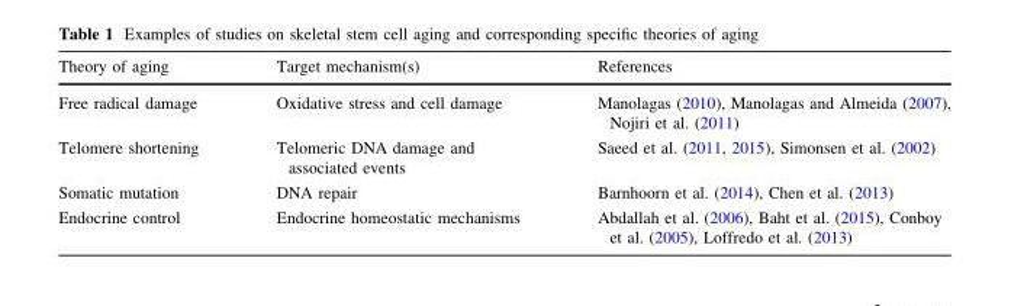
<table><thead><tr><td>Theory of aging</td><td>Target mechanism(s)</td><td>References</td></tr></thead><tbody><tr><td>Free radical damage</td><td>Oxidative stress and cell damage</td><td>Manolagas (2010), Manolagas and Almeida (2007), Nojiri et al. (2011)</td></tr><tr><td>Telomere shortening</td><td>Telomeric DNA damage and associated events</td><td>Saeed et al. (2011, 2015), Simonsen et al. (2002)</td></tr><tr><td>Somatic mutation</td><td>DNA repair</td><td>Barnhoorn et al. (2014), Chen et al. (2013)</td></tr><tr><td>Endocrine control</td><td>Endocrine homeostatic mechanisms</td><td>Abdallah et al. (2006), Baht et al. (2015), Conboy et al. (2005), Loffredo et al. (2013)</td></tr></tbody></table>